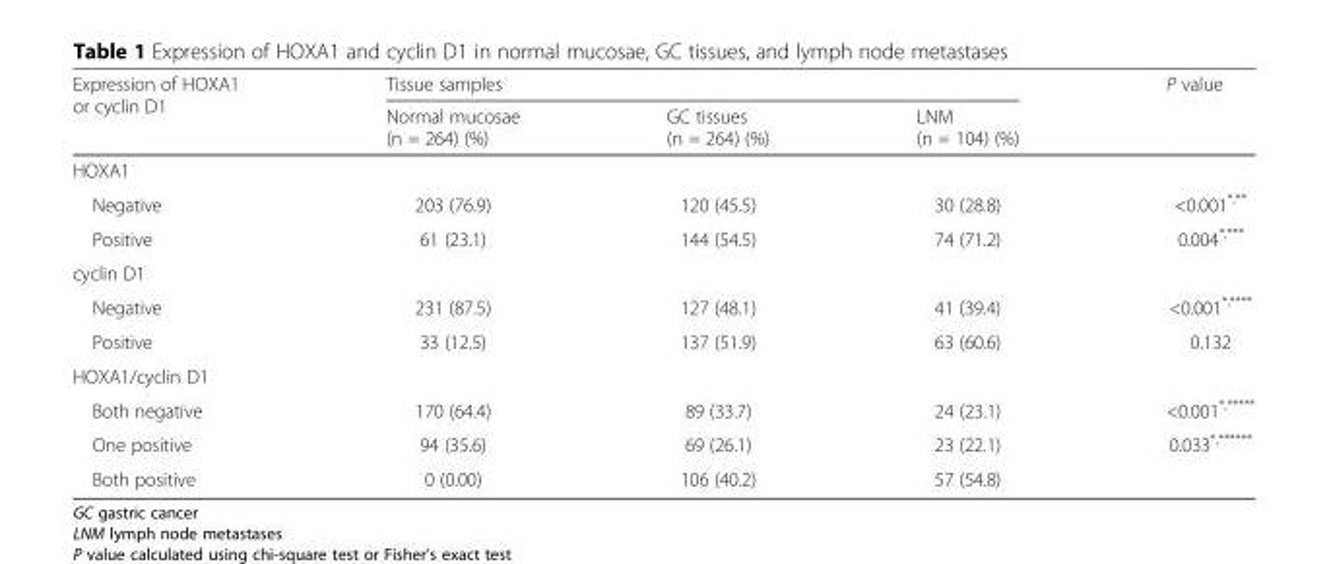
<table><thead><tr><td rowspan="2">Expression of HOXA1 or cyclin D1</td><td colspan="3">Tissue samples</td><td rowspan="2">P value</td></tr><tr><td>Normal mucosae (n = 264) (%)</td><td>GC tissues (n = 264) (%)</td><td>LNM (n = 104) (%)</td></tr></thead><tbody><tr><td colspan="5">HOXA1</td></tr><tr><td>Negative</td><td>203 (76.9)</td><td>120 (45.5)</td><td>30 (28.8)</td><td>&lt;0.001<sup>*,**</sup></td></tr><tr><td>Positive</td><td>61 (23.1)</td><td>144 (54.5)</td><td>74 (71.2)</td><td>0.004<sup>*,***</sup></td></tr><tr><td colspan="5">cyclin D1</td></tr><tr><td>Negative</td><td>231 (87.5)</td><td>127 (48.1)</td><td>41 (39.4)</td><td>&lt;0.001<sup>*,****</sup></td></tr><tr><td>Positive</td><td>33 (12.5)</td><td>137 (51.9)</td><td>63 (60.6)</td><td>0.132</td></tr><tr><td colspan="5">HOXA1/cyclin D1</td></tr><tr><td>Both negative</td><td>170 (64.4)</td><td>89 (33.7)</td><td>24 (23.1)</td><td>&lt;0.001<sup>*,*****</sup></td></tr><tr><td>One positive</td><td>94 (35.6)</td><td>69 (26.1)</td><td>23 (22.1)</td><td>0.033<sup>*,******</sup></td></tr><tr><td>Both positive</td><td>0 (0.00)</td><td>106 (40.2)</td><td>57 (54.8)</td><td></td></tr></tbody></table>